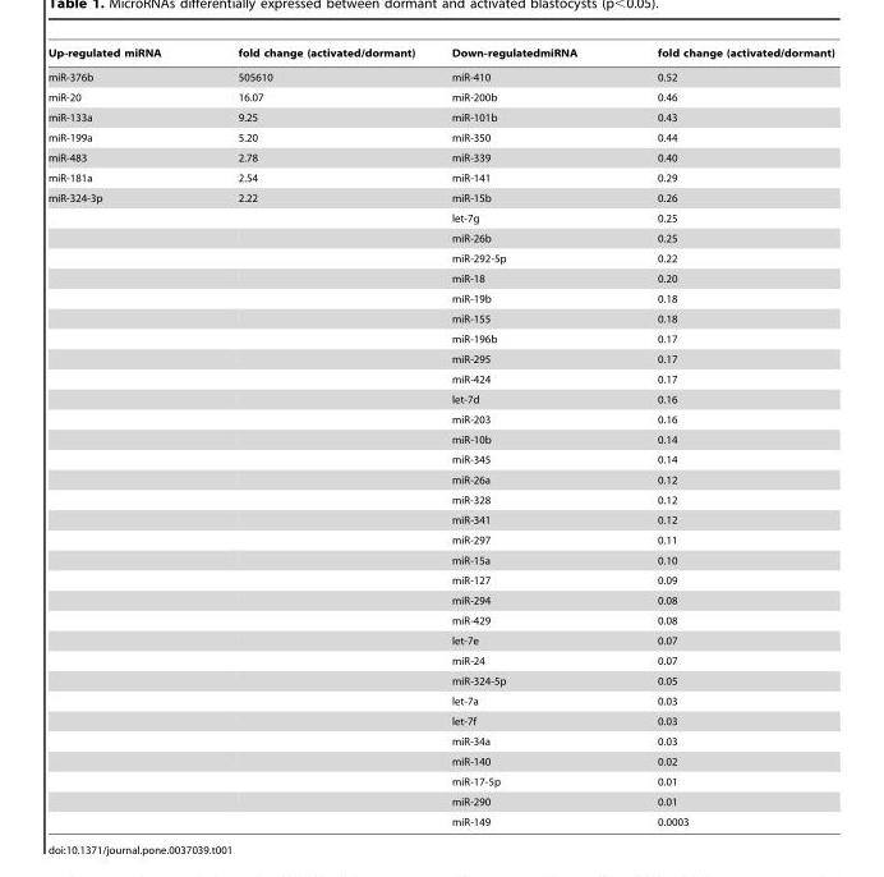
<table><thead><tr><td>Up-regulated miRNA</td><td>fold change (activated/dormant)</td><td>Down-regulatedmiRNA</td><td>fold change (activated/dormant)</td></tr></thead><tbody><tr><td>miR-376b</td><td>505610</td><td>miR-410</td><td>0.52</td></tr><tr><td>miR-20</td><td>16.07</td><td>miR-200b</td><td>0.46</td></tr><tr><td>miR-133a</td><td>9.25</td><td>miR-101b</td><td>0.43</td></tr><tr><td>miR-199a</td><td>5.20</td><td>miR-350</td><td>0.44</td></tr><tr><td>miR-483</td><td>2.78</td><td>miR-339</td><td>0.40</td></tr><tr><td>miR-181a</td><td>2.54</td><td>miR-141</td><td>0.29</td></tr><tr><td rowspan="32">miR-324-3p</td><td>2.22</td><td>miR-15b</td><td>0.26</td></tr><tr><td></td><td>let-7g</td><td>0.25</td></tr><tr><td></td><td>miR-26b</td><td>0.25</td></tr><tr><td></td><td>miR-292-5p</td><td>0.22</td></tr><tr><td></td><td>miR-18</td><td>0.20</td></tr><tr><td></td><td>miR-19b</td><td>0.18</td></tr><tr><td></td><td>miR-155</td><td>0.18</td></tr><tr><td></td><td>miR-196b</td><td>0.17</td></tr><tr><td></td><td>miR-295</td><td>0.17</td></tr><tr><td></td><td>miR-424</td><td>0.17</td></tr><tr><td></td><td>let-7d</td><td>0.16</td></tr><tr><td></td><td>miR-203</td><td>0.16</td></tr><tr><td></td><td>miR-10b</td><td>0.14</td></tr><tr><td></td><td>miR-345</td><td>0.14</td></tr><tr><td></td><td>miR-26a</td><td>0.12</td></tr><tr><td></td><td>miR-328</td><td>0.12</td></tr><tr><td></td><td>miR-341</td><td>0.12</td></tr><tr><td></td><td>miR-297</td><td>0.11</td></tr><tr><td></td><td>miR-15a</td><td>0.10</td></tr><tr><td></td><td>miR-127</td><td>0.09</td></tr><tr><td></td><td>miR-294</td><td>0.08</td></tr><tr><td></td><td>miR-429</td><td>0.08</td></tr><tr><td></td><td>let-7e</td><td>0.07</td></tr><tr><td></td><td>miR-24</td><td>0.07</td></tr><tr><td></td><td>miR-324-5p</td><td>0.05</td></tr><tr><td></td><td>let-7a</td><td>0.03</td></tr><tr><td></td><td>let-7f</td><td>0.03</td></tr><tr><td></td><td>miR-34a</td><td>0.03</td></tr><tr><td></td><td>miR-140</td><td>0.02</td></tr><tr><td></td><td>miR-17-5p</td><td>0.01</td></tr><tr><td></td><td>miR-290</td><td>0.01</td></tr><tr><td></td><td>miR-149</td><td>0.0003</td></tr></tbody></table>